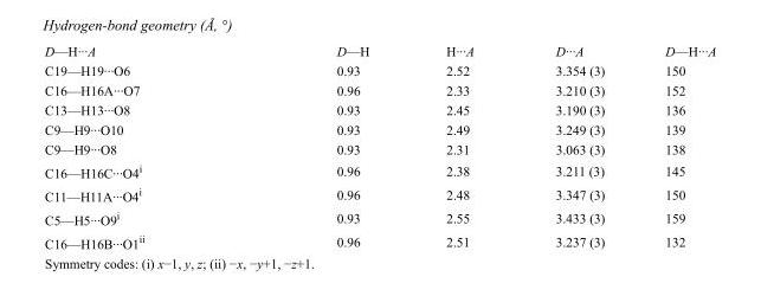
<table><tbody><tr><td>D—H···A</td><td>D—H</td><td>H···A</td><td>D···A</td><td>D—H···A</td></tr><tr><td>C19—H19···O6</td><td>0.93</td><td>2.52</td><td>3.354 (3)</td><td>150</td></tr><tr><td>C16—H16A···O7</td><td>0.96</td><td>2.33</td><td>3.210 (3)</td><td>152</td></tr><tr><td>C13—H13···O8</td><td>0.93</td><td>2.45</td><td>3.190 (3)</td><td>136</td></tr><tr><td>C9—H9···O10</td><td>0.93</td><td>2.49</td><td>3.249 (3)</td><td>139</td></tr><tr><td>C9—H9···O8</td><td>0.93</td><td>2.31</td><td>3.063 (3)</td><td>138</td></tr><tr><td>C16—H16C···O4<sup>i</sup></td><td>0.96</td><td>2.38</td><td>3.211 (3)</td><td>145</td></tr><tr><td>C11—H11A···O4<sup>i</sup></td><td>0.96</td><td>2.48</td><td>3.347 (3)</td><td>150</td></tr><tr><td>C5—H5···O9<sup>i</sup></td><td>0.93</td><td>2.55</td><td>3.433 (3)</td><td>159</td></tr><tr><td>C16—H16B···O1<sup>ii</sup></td><td>0.96</td><td>2.51</td><td>3.237 (3)</td><td>132</td></tr></tbody></table>